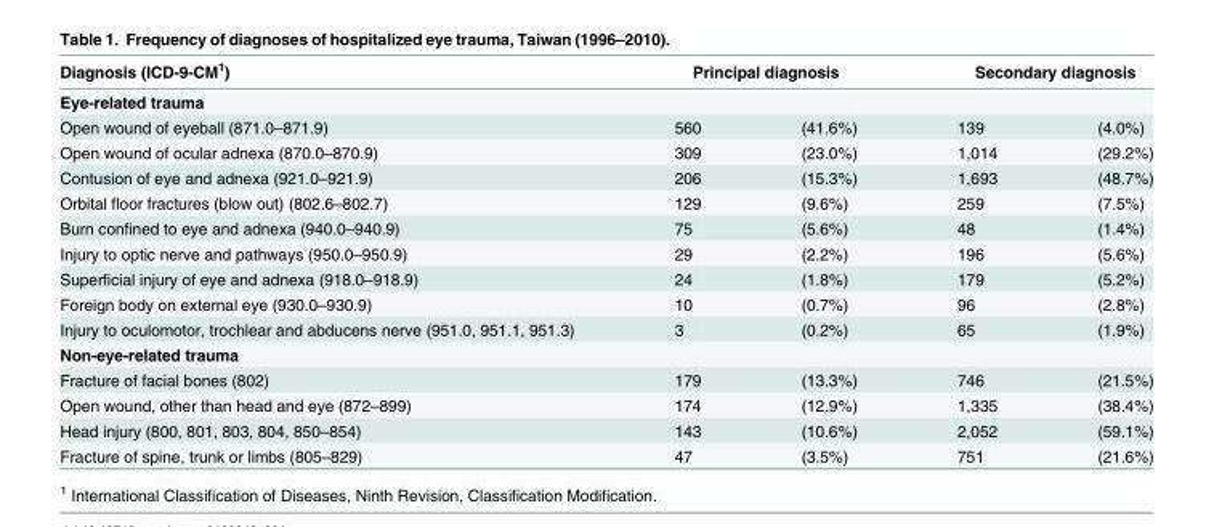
<table><thead><tr><td rowspan="2">Diagnosis (ICD-9-CM<sup>1</sup>) Eye-related trauma</td><td colspan="2">Principal diagnosis</td><td colspan="2">Secondary diagnosis</td></tr><tr><td></td><td></td><td></td><td></td></tr></thead><tbody><tr><td>Open wound of eyeball (871.0–871.9)</td><td>560</td><td>(41.6%)</td><td>139</td><td>(4.0%)</td></tr><tr><td>Open wound of ocular adnexa (870.0–870.9)</td><td>309</td><td>(23.0%)</td><td>1,014</td><td>(29.2%)</td></tr><tr><td>Contusion of eye and adnexa (921.0–921.9)</td><td>206</td><td>(15.3%)</td><td>1,693</td><td>(48.7%)</td></tr><tr><td>Orbital floor fractures (blow out) (802.6–802.7)</td><td>129</td><td>(9.6%)</td><td>259</td><td>(7.5%)</td></tr><tr><td>Burn confined to eye and adnexa (940.0–940.9)</td><td>75</td><td>(5.6%)</td><td>48</td><td>(1.4%)</td></tr><tr><td>Injury to optic nerve and pathways (950.0–950.9)</td><td>29</td><td>(2.2%)</td><td>196</td><td>(5.6%)</td></tr><tr><td>Superficial injury of eye and adnexa (918.0–918.9)</td><td>24</td><td>(1.8%)</td><td>179</td><td>(5.2%)</td></tr><tr><td>Foreign body on external eye (930.0–930.9)</td><td>10</td><td>(0.7%)</td><td>96</td><td>(2.8%)</td></tr><tr><td>Injury to oculomotor, trochlear and abducens nerve (951.0, 951.1, 951.3)</td><td>3</td><td>(0.2%)</td><td>65</td><td>(1.9%)</td></tr><tr><td colspan="5">Non-eye-related trauma</td></tr><tr><td>Fracture of facial bones (802)</td><td>179</td><td>(13.3%)</td><td>746</td><td>(21.5%)</td></tr><tr><td>Open wound, other than head and eye (872–899)</td><td>174</td><td>(12.9%)</td><td>1,335</td><td>(38.4%)</td></tr><tr><td>Head injury (800, 801, 803, 804, 850–854)</td><td>143</td><td>(10.6%)</td><td>2,052</td><td>(59.1%)</td></tr><tr><td>Fracture of spine, trunk or limbs (805–829)</td><td>47</td><td>(3.5%)</td><td>751</td><td>(21.6%)</td></tr></tbody></table>